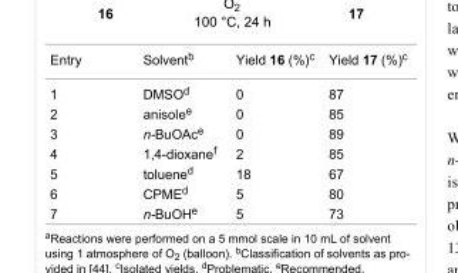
<table><tbody><tr><td>Entry</td><td>Solvent<sup>b</sup></td><td>Yield 16 (%)<sup>c</sup></td><td>Yield 17 (%)<sup>c</sup></td></tr><tr><td>1</td><td>DMSO<sup>d</sup></td><td>0</td><td>87</td></tr><tr><td>2</td><td>anisole<sup>e</sup></td><td>0</td><td>85</td></tr><tr><td>3</td><td>n-BuOAc<sup>e</sup></td><td>0</td><td>89</td></tr><tr><td>4</td><td>1,4-dioxane<sup>f</sup></td><td>2</td><td>85</td></tr><tr><td>5</td><td>toluene<sup>d</sup></td><td>18</td><td>67</td></tr><tr><td>6</td><td>CPME<sup>d</sup></td><td>5</td><td>80</td></tr><tr><td>7</td><td>n-BuOH<sup>e</sup></td><td>5</td><td>73</td></tr></tbody></table>